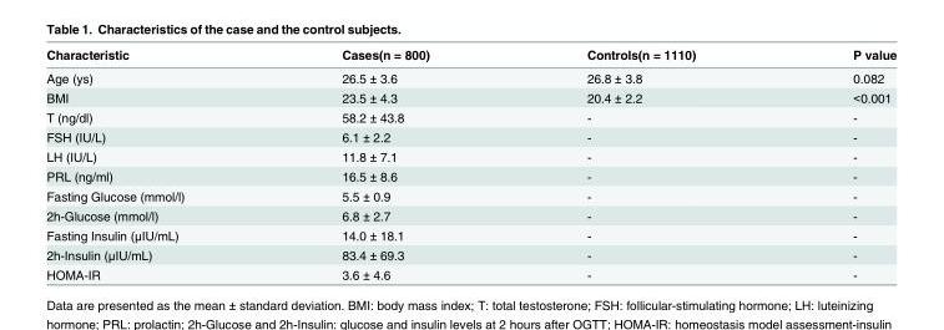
<table><thead><tr><td>Characteristic</td><td>Cases(n = 800)</td><td>Controls(n = 1110)</td><td>P value</td></tr></thead><tbody><tr><td>Age (ys)</td><td>26.5 ± 3.6</td><td>26.8 ± 3.8</td><td>0.082</td></tr><tr><td>BMI</td><td>23.5 ± 4.3</td><td>20.4 ± 2.2</td><td>&lt;0.001</td></tr><tr><td>T (ng/dl)</td><td>58.2 ± 43.8</td><td>-</td><td>-</td></tr><tr><td>FSH (IU/L)</td><td>6.1 ± 2.2</td><td>-</td><td>-</td></tr><tr><td>LH (IU/L)</td><td>11.8 ± 7.1</td><td>-</td><td>-</td></tr><tr><td>PRL (ng/ml)</td><td>16.5 ± 8.6</td><td>-</td><td>-</td></tr><tr><td>Fasting Glucose (mmol/l)</td><td>5.5 ± 0.9</td><td>-</td><td>-</td></tr><tr><td>2h-Glucose (mmol/l)</td><td>6.8 ± 2.7</td><td>-</td><td>-</td></tr><tr><td>Fasting Insulin (μIU/mL)</td><td>14.0 ± 18.1</td><td>-</td><td>-</td></tr><tr><td>2h-Insulin (μIU/mL)</td><td>83.4 ± 69.3</td><td>-</td><td>-</td></tr><tr><td>HOMA-IR</td><td>3.6 ± 4.6</td><td>-</td><td>-</td></tr></tbody></table>